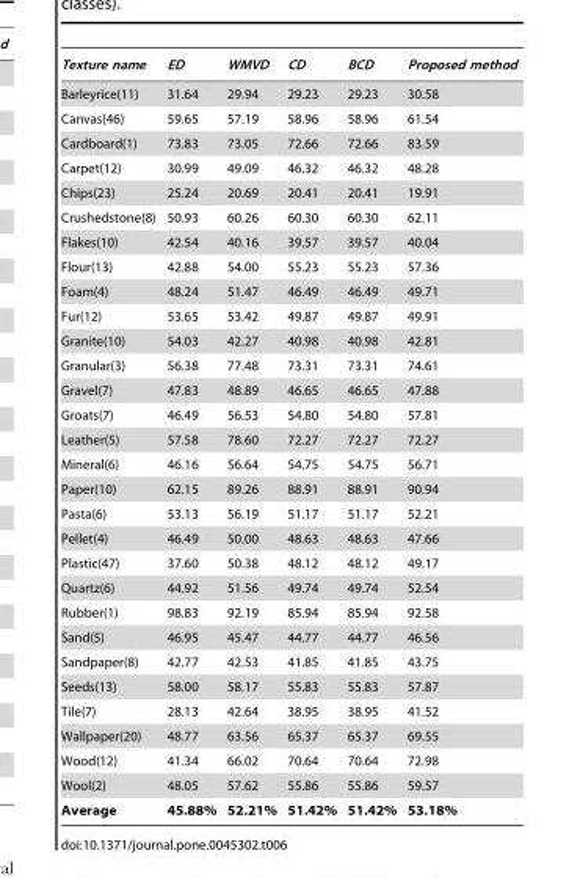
<table><thead><tr><td>Texture name</td><td>ED</td><td>WMVD</td><td>CD</td><td>BCD</td><td>Proposed method</td></tr></thead><tbody><tr><td>Barleyrice(11)</td><td>31.64</td><td>29.94</td><td>29.23</td><td>29.23</td><td>30.58</td></tr><tr><td>Canvas(46)</td><td>59.65</td><td>57.19</td><td>58.96</td><td>58.96</td><td>61.54</td></tr><tr><td>Cardboard(1)</td><td>73.83</td><td>73.05</td><td>72.66</td><td>72.66</td><td>83.59</td></tr><tr><td>Carpet(12)</td><td>30.99</td><td>49.09</td><td>46.32</td><td>46.32</td><td>48.28</td></tr><tr><td>Chips(23)</td><td>25.24</td><td>20.69</td><td>20.41</td><td>20.41</td><td>19.91</td></tr><tr><td>Crushedstone(8)</td><td>50.93</td><td>60.26</td><td>60.30</td><td>60.30</td><td>62.11</td></tr><tr><td>Flakes(10)</td><td>42.54</td><td>40.16</td><td>39.57</td><td>39.57</td><td>40.04</td></tr><tr><td>Flour(13)</td><td>42.88</td><td>54.00</td><td>55.23</td><td>55.23</td><td>57.36</td></tr><tr><td>Foam(4)</td><td>48.24</td><td>51.47</td><td>46.49</td><td>46.49</td><td>49.71</td></tr><tr><td>Fur(12)</td><td>53.65</td><td>53.42</td><td>49.87</td><td>49.87</td><td>49.91</td></tr><tr><td>Granite(10)</td><td>54.03</td><td>42.27</td><td>40.98</td><td>40.98</td><td>42.81</td></tr><tr><td>Granular(3)</td><td>56.38</td><td>77.48</td><td>73.31</td><td>73.31</td><td>74.61</td></tr><tr><td>Gravel(7)</td><td>47.83</td><td>48.89</td><td>46.65</td><td>46.65</td><td>47.88</td></tr><tr><td>Groats(7)</td><td>46.49</td><td>56.53</td><td>54.80</td><td>54.80</td><td>57.81</td></tr><tr><td>Leather(5)</td><td>57.58</td><td>78.60</td><td>72.27</td><td>72.27</td><td>72.27</td></tr><tr><td>Mineral(6)</td><td>46.16</td><td>56.64</td><td>54.75</td><td>54.75</td><td>56.71</td></tr><tr><td>Paper(10)</td><td>62.15</td><td>89.26</td><td>88.91</td><td>88.91</td><td>90.94</td></tr><tr><td>Pasta(6)</td><td>53.13</td><td>56.19</td><td>51.17</td><td>51.17</td><td>52.21</td></tr><tr><td>Pellet(4)</td><td>46.49</td><td>50.00</td><td>48.63</td><td>48.63</td><td>47.66</td></tr><tr><td>Plastic(47)</td><td>37.60</td><td>50.38</td><td>48.12</td><td>48.12</td><td>49.17</td></tr><tr><td>Quartz(6)</td><td>44.92</td><td>51.56</td><td>49.74</td><td>49.74</td><td>52.54</td></tr><tr><td>Rubber(1)</td><td>98.83</td><td>92.19</td><td>85.94</td><td>85.94</td><td>92.58</td></tr><tr><td>Sand(5)</td><td>46.95</td><td>45.47</td><td>44.77</td><td>44.77</td><td>46.56</td></tr><tr><td>Sandpaper(8)</td><td>42.77</td><td>42.53</td><td>41.85</td><td>41.85</td><td>43.75</td></tr><tr><td>Seeds(13)</td><td>58.00</td><td>58.17</td><td>55.83</td><td>55.83</td><td>57.87</td></tr><tr><td>Tile(7)</td><td>28.13</td><td>42.64</td><td>38.95</td><td>38.95</td><td>41.52</td></tr><tr><td>Wallpaper(20)</td><td>48.77</td><td>63.56</td><td>65.37</td><td>65.37</td><td>69.55</td></tr><tr><td>Wood(12)</td><td>41.34</td><td>66.02</td><td>70.64</td><td>70.64</td><td>72.98</td></tr><tr><td>Wool(2)</td><td>48.05</td><td>57.62</td><td>55.86</td><td>55.86</td><td>59.57</td></tr><tr><td>Average</td><td>45.88%</td><td>52.21%</td><td>51.42%</td><td>51.42%</td><td>53.18%</td></tr></tbody></table>